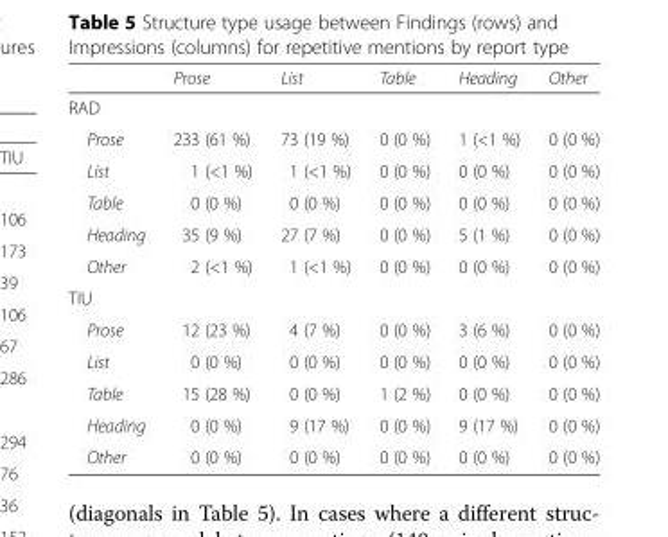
<table><thead><tr><td></td><td>Prose</td><td>List</td><td>Table</td><td>Heading</td><td>Other</td></tr></thead><tbody><tr><td colspan="6">RAD</td></tr><tr><td>Prose</td><td>233 (61 %)</td><td>73 (19 %)</td><td>0 (0 %)</td><td>1 (&lt;1 %)</td><td>0 (0 %)</td></tr><tr><td>List</td><td>1 (&lt;1 %)</td><td>1 (&lt;1 %)</td><td>0 (0 %)</td><td>0 (0 %)</td><td>0 (0 %)</td></tr><tr><td>Table</td><td>0 (0 %)</td><td>0 (0 %)</td><td>0 (0 %)</td><td>0 (0 %)</td><td>0 (0 %)</td></tr><tr><td>Heading</td><td>35 (9 %)</td><td>27 (7 %)</td><td>0 (0 %)</td><td>5 (1 %)</td><td>0 (0 %)</td></tr><tr><td>Other</td><td>2 (&lt;1 %)</td><td>1 (&lt;1 %)</td><td>0 (0 %)</td><td>0 (0 %)</td><td>0 (0 %)</td></tr><tr><td colspan="6">TIU</td></tr><tr><td>Prose</td><td>12 (23 %)</td><td>4 (7 %)</td><td>0 (0 %)</td><td>3 (6 %)</td><td>0 (0 %)</td></tr><tr><td>List</td><td>0 (0 %)</td><td>0 (0 %)</td><td>0 (0 %)</td><td>0 (0 %)</td><td>0 (0 %)</td></tr><tr><td>Table</td><td>15 (28 %)</td><td>0 (0 %)</td><td>1 (2 %)</td><td>0 (0 %)</td><td>0 (0 %)</td></tr><tr><td>Heading</td><td>0 (0 %)</td><td>9 (17 %)</td><td>0 (0 %)</td><td>9 (17 %)</td><td>0 (0 %)</td></tr><tr><td>Other</td><td>0 (0 %)</td><td>0 (0 %)</td><td>0 (0 %)</td><td>0 (0 %)</td><td>0 (0 %)</td></tr></tbody></table>